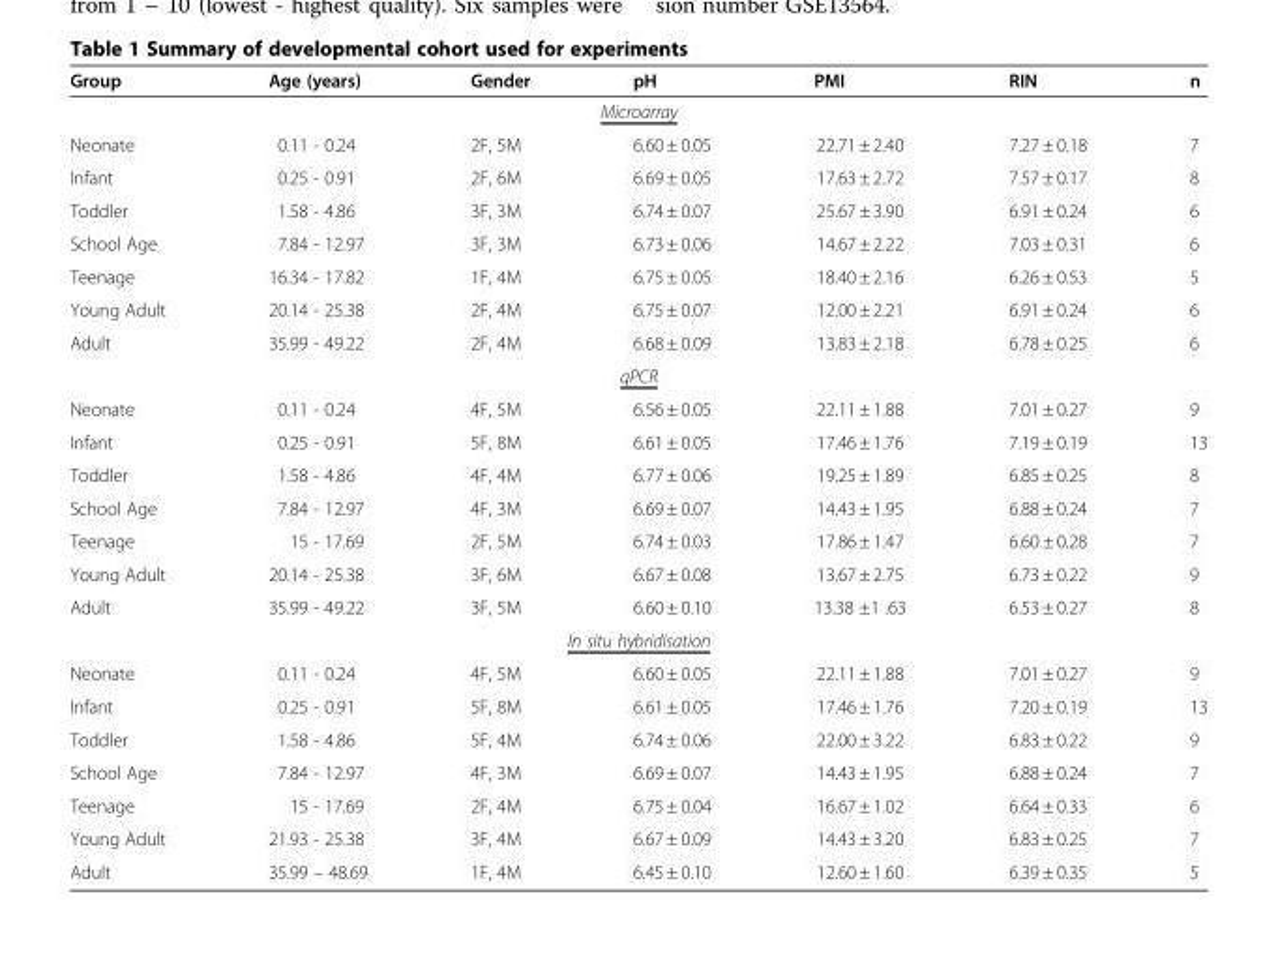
<table><thead><tr><td>Group</td><td>Age (years)</td><td>Gender</td><td>pH</td><td>PMI</td><td>RIN</td><td>n</td></tr></thead><tbody><tr><td colspan="7">Microarray</td></tr><tr><td>Neonate</td><td>0.11 - 0.24</td><td>2F, 5M</td><td>6.60 ± 0.05</td><td>22.71 ± 2.40</td><td>7.27 ± 0.18</td><td>7</td></tr><tr><td>Infant</td><td>0.25 - 0.91</td><td>2F, 6M</td><td>6.69 ± 0.05</td><td>17.63 ± 2.72</td><td>7.57 ± 0.17</td><td>8</td></tr><tr><td>Toddler</td><td>1.58 - 4.86</td><td>3F, 3M</td><td>6.74 ± 0.07</td><td>25.67 ± 3.90</td><td>6.91 ± 0.24</td><td>6</td></tr><tr><td>School Age</td><td>7.84 - 12.97</td><td>3F, 3M</td><td>6.73 ± 0.06</td><td>14.67 ± 2.22</td><td>7.03 ± 0.31</td><td>6</td></tr><tr><td>Teenage</td><td>16.34 - 17.82</td><td>1F, 4M</td><td>6.75 ± 0.05</td><td>18.40 ± 2.16</td><td>6.26 ± 0.53</td><td>5</td></tr><tr><td>Young Adult</td><td>20.14 - 25.38</td><td>2F, 4M</td><td>6.75 ± 0.07</td><td>12.00 ± 2.21</td><td>6.91 ± 0.24</td><td>6</td></tr><tr><td>Adult</td><td>35.99 - 49.22</td><td>2F, 4M</td><td>6.68 ± 0.09</td><td>13.83 ± 2.18</td><td>6.78 ± 0.25</td><td>6</td></tr><tr><td colspan="7">qPCR</td></tr><tr><td>Neonate</td><td>0.11 - 0.24</td><td>4F, 5M</td><td>6.56 ± 0.05</td><td>22.11 ± 1.88</td><td>7.01 ± 0.27</td><td>9</td></tr><tr><td>Infant</td><td>0.25 - 0.91</td><td>5F, 8M</td><td>6.61 ± 0.05</td><td>17.46 ± 1.76</td><td>7.19 ± 0.19</td><td>13</td></tr><tr><td>Toddler</td><td>1.58 - 4.86</td><td>4F, 4M</td><td>6.77 ± 0.06</td><td>19.25 ± 1.89</td><td>6.85 ± 0.25</td><td>8</td></tr><tr><td>School Age</td><td>7.84 - 12.97</td><td>4F, 3M</td><td>6.69 ± 0.07</td><td>14.43 ± 1.95</td><td>6.88 ± 0.24</td><td>7</td></tr><tr><td>Teenage</td><td>15 - 17.69</td><td>2F, 5M</td><td>6.74 ± 0.03</td><td>17.86 ± 1.47</td><td>6.60 ± 0.28</td><td>7</td></tr><tr><td>Young Adult</td><td>20.14 - 25.38</td><td>3F, 6M</td><td>6.67 ± 0.08</td><td>13.67 ± 2.75</td><td>6.73 ± 0.22</td><td>9</td></tr><tr><td>Adult</td><td>35.99 - 49.22</td><td>3F, 5M</td><td>6.60 ± 0.10</td><td>13.38 ±1 .63</td><td>6.53 ± 0.27</td><td>8</td></tr><tr><td colspan="7">In situ hybridisation</td></tr><tr><td>Neonate</td><td>0.11 - 0.24</td><td>4F, 5M</td><td>6.60 ± 0.05</td><td>22.11 ± 1.88</td><td>7.01 ± 0.27</td><td>9</td></tr><tr><td>Infant</td><td>0.25 - 0.91</td><td>5F, 8M</td><td>6.61 ± 0.05</td><td>17.46 ± 1.76</td><td>7.20 ± 0.19</td><td>13</td></tr><tr><td>Toddler</td><td>1.58 - 4.86</td><td>5F, 4M</td><td>6.74 ± 0.06</td><td>22.00 ± 3.22</td><td>6.83 ± 0.22</td><td>9</td></tr><tr><td>School Age</td><td>7.84 - 12.97</td><td>4F, 3M</td><td>6.69 ± 0.07</td><td>14.43 ± 1.95</td><td>6.88 ± 0.24</td><td>7</td></tr><tr><td>Teenage</td><td>15 - 17.69</td><td>2F, 4M</td><td>6.75 ± 0.04</td><td>16.67 ± 1.02</td><td>6.64 ± 0.33</td><td>6</td></tr><tr><td>Young Adult</td><td>21.93 - 25.38</td><td>3F, 4M</td><td>6.67 ± 0.09</td><td>14.43 ± 3.20</td><td>6.83 ± 0.25</td><td>7</td></tr><tr><td>Adult</td><td>35.99 – 48.69</td><td>1F, 4M</td><td>6.45 ± 0.10</td><td>12.60 ± 1.60</td><td>6.39 ± 0.35</td><td>5</td></tr></tbody></table>